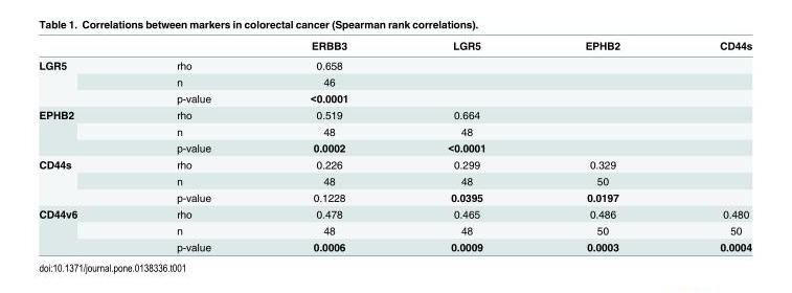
<table><thead><tr><td></td><td></td><td>ERBB3</td><td>LGR5</td><td>EPHB2</td><td>CD44s</td></tr></thead><tbody><tr><td rowspan="3">LGR5</td><td>rho</td><td>0.658</td><td></td><td></td><td></td></tr><tr><td>n</td><td>46</td><td></td><td></td><td></td></tr><tr><td>p-value</td><td>&lt;0.0001</td><td></td><td></td><td></td></tr><tr><td rowspan="3">EPHB2</td><td>rho</td><td>0.519</td><td>0.664</td><td></td><td></td></tr><tr><td>n</td><td>48</td><td>48</td><td></td><td></td></tr><tr><td>p-value</td><td>0.0002</td><td>&lt;0.0001</td><td></td><td></td></tr><tr><td rowspan="3">CD44s</td><td>rho</td><td>0.226</td><td>0.299</td><td>0.329</td><td></td></tr><tr><td>n</td><td>48</td><td>48</td><td>50</td><td></td></tr><tr><td>p-value</td><td>0.1228</td><td>0.0395</td><td>0.0197</td><td></td></tr><tr><td rowspan="3">CD44v6</td><td>rho</td><td>0.478</td><td>0.465</td><td>0.486</td><td>0.480</td></tr><tr><td>n</td><td>48</td><td>48</td><td>50</td><td>50</td></tr><tr><td>p-value</td><td>0.0006</td><td>0.0009</td><td>0.0003</td><td>0.0004</td></tr></tbody></table>